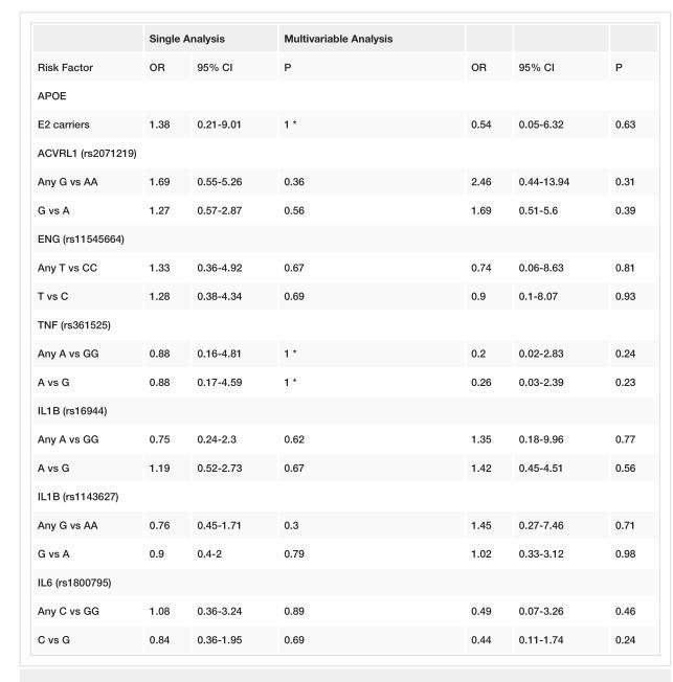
<table><thead><tr><td rowspan="2">Risk Factor</td><td colspan="2">Single Analysis</td><td rowspan="2">Multivariable Analysis P</td><td rowspan="2">OR</td><td rowspan="2">95% CI</td><td rowspan="2">P</td></tr><tr><td>OR</td><td>95% CI</td></tr></thead><tbody><tr><td colspan="7">APOE</td></tr><tr><td>E2 carriers</td><td>1.38</td><td>0.21-9.01</td><td>1 *</td><td>0.54</td><td>0.05-6.32</td><td>0.63</td></tr><tr><td colspan="7">ACVRL1 (rs2071219)</td></tr><tr><td>Any G vs AA</td><td>1.69</td><td>0.55-5.26</td><td>0.36</td><td>2.46</td><td>0.44-13.94</td><td>0.31</td></tr><tr><td>G vs A</td><td>1.27</td><td>0.57-2.87</td><td>0.56</td><td>1.69</td><td>0.51-5.6</td><td>0.39</td></tr><tr><td colspan="7">ENG (rs11545664)</td></tr><tr><td>Any T vs CC</td><td>1.33</td><td>0.36-4.92</td><td>0.67</td><td>0.74</td><td>0.06-8.63</td><td>0.81</td></tr><tr><td>T vs C</td><td>1.28</td><td>0.38-4.34</td><td>0.69</td><td>0.9</td><td>0.1-8.07</td><td>0.93</td></tr><tr><td colspan="7">TNF (rs361525)</td></tr><tr><td>Any A vs GG</td><td>0.88</td><td>0.16-4.81</td><td>1 *</td><td>0.2</td><td>0.02-2.83</td><td>0.24</td></tr><tr><td>A vs G</td><td>0.88</td><td>0.17-4.59</td><td>1 *</td><td>0.26</td><td>0.03-2.39</td><td>0.23</td></tr><tr><td colspan="7">IL1B (rs16944)</td></tr><tr><td>Any A vs GG</td><td>0.75</td><td>0.24-2.3</td><td>0.62</td><td>1.35</td><td>0.18-9.96</td><td>0.77</td></tr><tr><td>A vs G</td><td>1.19</td><td>0.52-2.73</td><td>0.67</td><td>1.42</td><td>0.45-4.51</td><td>0.56</td></tr><tr><td colspan="7">IL1B (rs1143627)</td></tr><tr><td>Any G vs AA</td><td>0.76</td><td>0.45-1.71</td><td>0.3</td><td>1.45</td><td>0.27-7.46</td><td>0.71</td></tr><tr><td>G vs A</td><td>0.9</td><td>0.4-2</td><td>0.79</td><td>1.02</td><td>0.33-3.12</td><td>0.98</td></tr><tr><td colspan="7">IL6 (rs1800795)</td></tr><tr><td>Any C vs GG</td><td>1.08</td><td>0.36-3.24</td><td>0.89</td><td>0.49</td><td>0.07-3.26</td><td>0.46</td></tr><tr><td>C vs G</td><td>0.84</td><td>0.36-1.95</td><td>0.69</td><td>0.44</td><td>0.11-1.74</td><td>0.24</td></tr></tbody></table>